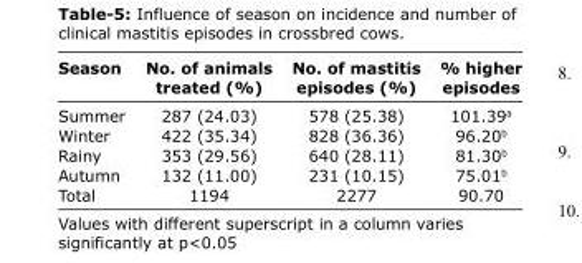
<table><thead><tr><td>Season</td><td>No. of animals treated (%)</td><td>No. of mastitis episodes (%)</td><td>% higher episodes</td></tr></thead><tbody><tr><td>Summer</td><td>287 (24.03)</td><td>578 (25.38)</td><td>101.39<sup>a</sup></td></tr><tr><td>Winter</td><td>422 (35.34)</td><td>828 (36.36)</td><td>96.20<sup>b</sup></td></tr><tr><td>Rainy</td><td>353 (29.56)</td><td>640 (28.11)</td><td>81.30<sup>b</sup></td></tr><tr><td>Autumn</td><td>132 (11.00)</td><td>231 (10.15)</td><td>75.01<sup>b</sup></td></tr><tr><td>Total</td><td>1194</td><td>2277</td><td>90.70</td></tr></tbody></table>